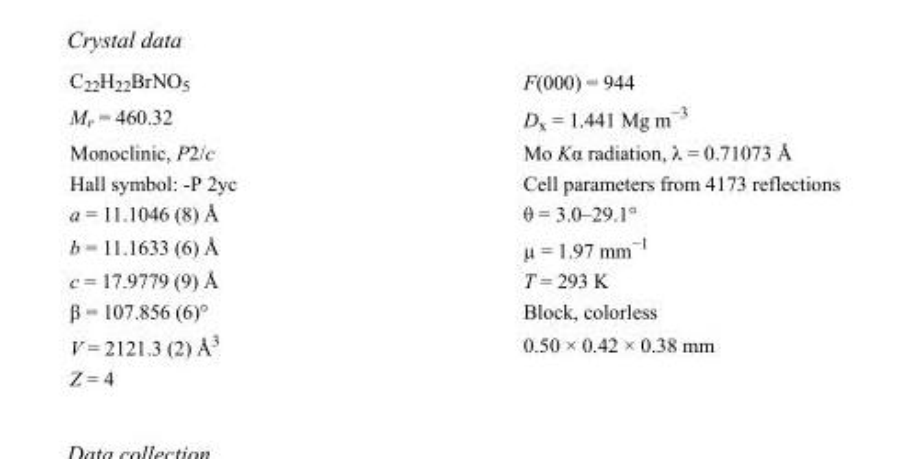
<table><tbody><tr><td>C<sub>22</sub>H<sub>22</sub>BrNO<sub>5</sub></td><td>F(000) = 944</td></tr><tr><td>M<sub>r</sub> = 460.32</td><td>D<sub>x</sub> = 1.441 Mg m<sup>−3</sup></td></tr><tr><td>Monoclinic, P2/c</td><td>Mo Kα radiation, λ = 0.71073 Å</td></tr><tr><td>Hall symbol: -P 2yc</td><td>Cell parameters from 4173 reflections</td></tr><tr><td>a = 11.1046 (8) Å</td><td>θ = 3.0–29.1°</td></tr><tr><td>b = 11.1633 (6) Å</td><td>µ = 1.97 mm<sup>−1</sup></td></tr><tr><td>c = 17.9779 (9) Å</td><td>T = 293 K</td></tr><tr><td>β = 107.856 (6)°</td><td>Block, colorless</td></tr><tr><td>V = 2121.3 (2) Å<sup>3</sup></td><td>0.50 × 0.42 × 0.38 mm</td></tr><tr><td>Z = 4</td><td></td></tr></tbody></table>